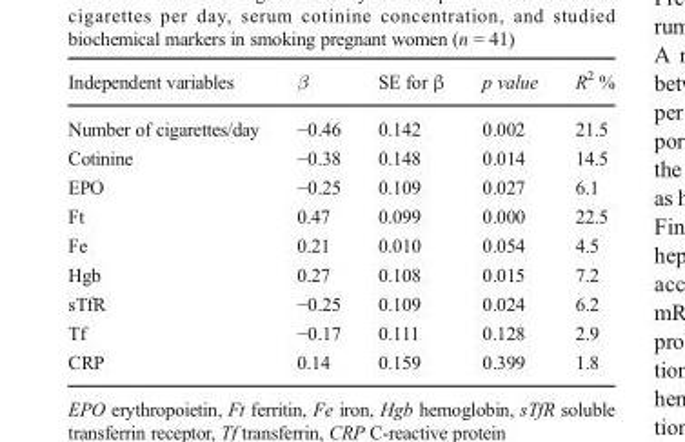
<table><thead><tr><td>Independent variables</td><td>β</td><td>SE for β</td><td>p value</td><td>R<sup>2</sup> %</td></tr></thead><tbody><tr><td>Number of cigarettes/day</td><td>−0.46</td><td>0.142</td><td>0.002</td><td>21.5</td></tr><tr><td>Cotinine</td><td>−0.38</td><td>0.148</td><td>0.014</td><td>14.5</td></tr><tr><td>EPO</td><td>−0.25</td><td>0.109</td><td>0.027</td><td>6.1</td></tr><tr><td>Ft</td><td>0.47</td><td>0.099</td><td>0.000</td><td>22.5</td></tr><tr><td>Fe</td><td>0.21</td><td>0.010</td><td>0.054</td><td>4.5</td></tr><tr><td>Hgb</td><td>0.27</td><td>0.108</td><td>0.015</td><td>7.2</td></tr><tr><td>sTfR</td><td>−0.25</td><td>0.109</td><td>0.024</td><td>6.2</td></tr><tr><td>Tf</td><td>−0.17</td><td>0.111</td><td>0.128</td><td>2.9</td></tr><tr><td>CRP</td><td>0.14</td><td>0.159</td><td>0.399</td><td>1.8</td></tr></tbody></table>